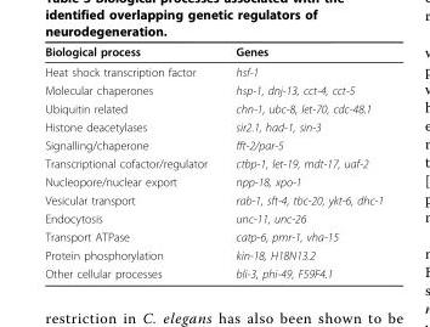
<table><thead><tr><td>Biological process</td><td>Genes</td></tr></thead><tbody><tr><td>Heat shock transcription factor</td><td>hsf-1</td></tr><tr><td>Molecular chaperones</td><td>hsp-1, dnj-13, cct-4, cct-5</td></tr><tr><td>Ubiquitin related</td><td>chn-1, ubc-8, let-70, cdc-48.1</td></tr><tr><td>Histone deacetylases</td><td>sir2.1, had-1, sin-3</td></tr><tr><td>Signalling/chaperone</td><td>fft-2/par-5</td></tr><tr><td>Transcriptional cofactor/regulator</td><td>ctbp-1, let-19, mdt-17, uaf-2</td></tr><tr><td>Nucleopore/nuclear export</td><td>npp-18, xpo-1</td></tr><tr><td>Vesicular transport</td><td>rab-1, sft-4, tbc-20, ykt-6, dhc-1</td></tr><tr><td>Endocytosis</td><td>unc-11, unc-26</td></tr><tr><td>Transport ATPase</td><td>catp-6, pmr-1, vha-15</td></tr><tr><td>Protein phosphorylation</td><td>kin-18, H18N13.2</td></tr><tr><td>Other cellular processes</td><td>bli-3, phi-49, F59F4.1</td></tr></tbody></table>